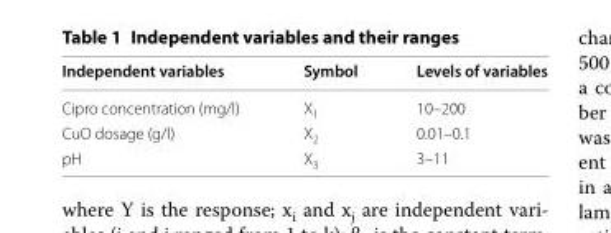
<table><thead><tr><td>Independent variables</td><td>Symbol</td><td>Levels of variables</td></tr></thead><tbody><tr><td>Cipro concentration (mg/l)</td><td>X<sub>1</sub></td><td>10–200</td></tr><tr><td>CuO dosage (g/l)</td><td>X<sub>2</sub></td><td>0.01–0.1</td></tr><tr><td>pH</td><td>X<sub>3</sub></td><td>3–11</td></tr></tbody></table>